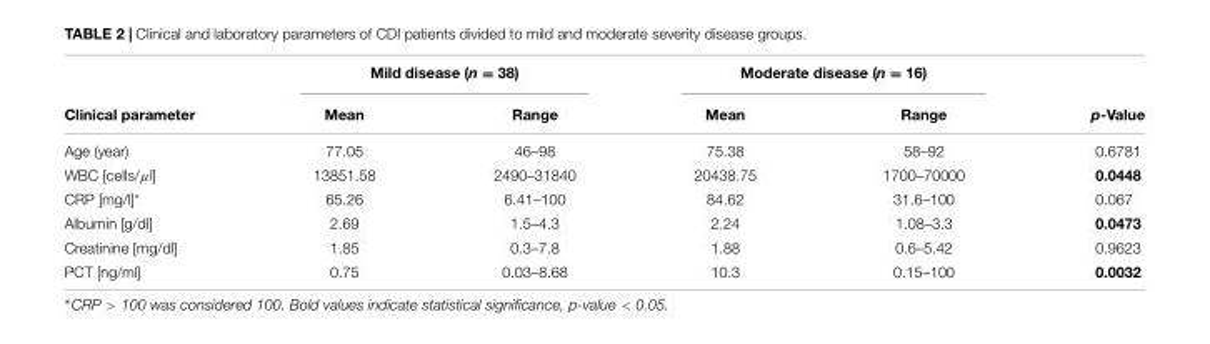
<table><thead><tr><td rowspan="2">Clinical parameter</td><td colspan="2">Mild disease (n = 38)</td><td colspan="2">Moderate disease (n = 16)</td><td rowspan="2">p-Value</td></tr><tr><td>Mean</td><td>Range</td><td>Mean</td><td>Range</td></tr></thead><tbody><tr><td>Age (year)</td><td>77.05</td><td>46–98</td><td>75.38</td><td>58–92</td><td>0.6781</td></tr><tr><td>WBC [cells/µl]</td><td>13851.58</td><td>2490–31840</td><td>20438.75</td><td>1700–70000</td><td>0.0448</td></tr><tr><td>CRP [mg/l]*</td><td>65.26</td><td>6.41–100</td><td>84.62</td><td>31.6–100</td><td>0.067</td></tr><tr><td>Albumin [g/dl]</td><td>2.69</td><td>1.5–4.3</td><td>2.24</td><td>1.08–3.3</td><td>0.0473</td></tr><tr><td>Creatinine [mg/dl]</td><td>1.85</td><td>0.3–7.8</td><td>1.88</td><td>0.6–5.42</td><td>0.9623</td></tr><tr><td>PCT [ng/ml]</td><td>0.75</td><td>0.03–8.68</td><td>10.3</td><td>0.15–100</td><td>0.0032</td></tr></tbody></table>